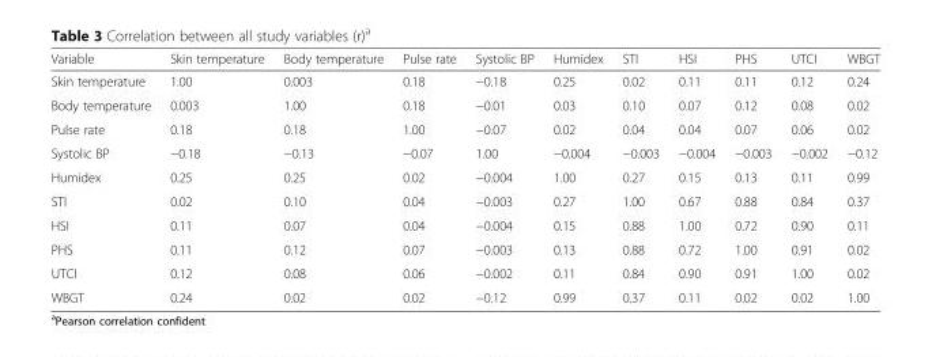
<table><thead><tr><td>Variable</td><td>Skin temperature</td><td>Body temperature</td><td>Pulse rate</td><td>Systolic BP</td><td>Humidex</td><td>STI</td><td>HSI</td><td>PHS</td><td>UTCI</td><td>WBGT</td></tr></thead><tbody><tr><td>Skin temperature</td><td>1.00</td><td>0.003</td><td>0.18</td><td>−0.18</td><td>0.25</td><td>0.02</td><td>0.11</td><td>0.11</td><td>0.12</td><td>0.24</td></tr><tr><td>Body temperature</td><td>0.003</td><td>1.00</td><td>0.18</td><td>−0.01</td><td>0.03</td><td>0.10</td><td>0.07</td><td>0.12</td><td>0.08</td><td>0.02</td></tr><tr><td>Pulse rate</td><td>0.18</td><td>0.18</td><td>1.00</td><td>−0.07</td><td>0.02</td><td>0.04</td><td>0.04</td><td>0.07</td><td>0.06</td><td>0.02</td></tr><tr><td>Systolic BP</td><td>−0.18</td><td>−0.13</td><td>−0.07</td><td>1.00</td><td>−0.004</td><td>−0.003</td><td>−0.004</td><td>−0.003</td><td>−0.002</td><td>−0.12</td></tr><tr><td>Humidex</td><td>0.25</td><td>0.25</td><td>0.02</td><td>−0.004</td><td>1.00</td><td>0.27</td><td>0.15</td><td>0.13</td><td>0.11</td><td>0.99</td></tr><tr><td>STI</td><td>0.02</td><td>0.10</td><td>0.04</td><td>−0.003</td><td>0.27</td><td>1.00</td><td>0.67</td><td>0.88</td><td>0.84</td><td>0.37</td></tr><tr><td>HSI</td><td>0.11</td><td>0.07</td><td>0.04</td><td>−0.004</td><td>0.15</td><td>0.88</td><td>1.00</td><td>0.72</td><td>0.90</td><td>0.11</td></tr><tr><td>PHS</td><td>0.11</td><td>0.12</td><td>0.07</td><td>−0.003</td><td>0.13</td><td>0.88</td><td>0.72</td><td>1.00</td><td>0.91</td><td>0.02</td></tr><tr><td>UTCI</td><td>0.12</td><td>0.08</td><td>0.06</td><td>−0.002</td><td>0.11</td><td>0.84</td><td>0.90</td><td>0.91</td><td>1.00</td><td>0.02</td></tr><tr><td>WBGT</td><td>0.24</td><td>0.02</td><td>0.02</td><td>−0.12</td><td>0.99</td><td>0.37</td><td>0.11</td><td>0.02</td><td>0.02</td><td>1.00</td></tr></tbody></table>